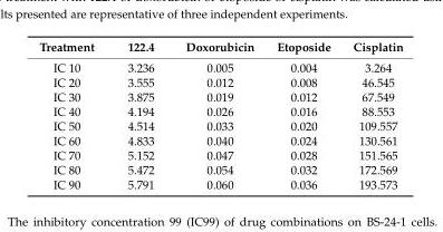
<table><thead><tr><td>Treatment</td><td>122.4</td><td>Doxorubicin</td><td>Etoposide</td><td>Cisplatin</td></tr></thead><tbody><tr><td>IC 10</td><td>3.236</td><td>0.005</td><td>0.004</td><td>3.264</td></tr><tr><td>IC 20</td><td>3.555</td><td>0.012</td><td>0.008</td><td>46.545</td></tr><tr><td>IC 30</td><td>3.875</td><td>0.019</td><td>0.012</td><td>67.549</td></tr><tr><td>IC 40</td><td>4.194</td><td>0.026</td><td>0.016</td><td>88.553</td></tr><tr><td>IC 50</td><td>4.514</td><td>0.033</td><td>0.020</td><td>109.557</td></tr><tr><td>IC 60</td><td>4.833</td><td>0.040</td><td>0.024</td><td>130.561</td></tr><tr><td>IC 70</td><td>5.152</td><td>0.047</td><td>0.028</td><td>151.565</td></tr><tr><td>IC 80</td><td>5.472</td><td>0.054</td><td>0.032</td><td>172.569</td></tr><tr><td>IC 90</td><td>5.791</td><td>0.060</td><td>0.036</td><td>193.573</td></tr></tbody></table>